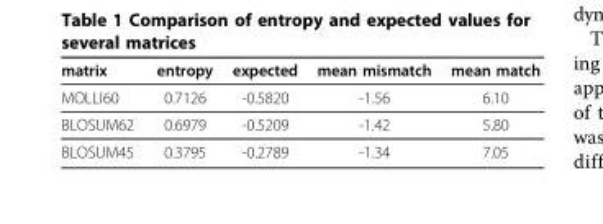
<table><thead><tr><td>matrix</td><td>entropy</td><td>expected</td><td>mean mismatch</td><td>mean match</td></tr></thead><tbody><tr><td>MOLLI60</td><td>0.7126</td><td>-0.5820</td><td>-1.56</td><td>6.10</td></tr><tr><td>BLOSUM62</td><td>0.6979</td><td>-0.5209</td><td>-1.42</td><td>5.80</td></tr><tr><td>BLOSUM45</td><td>0.3795</td><td>-0.2789</td><td>-1.34</td><td>7.05</td></tr></tbody></table>